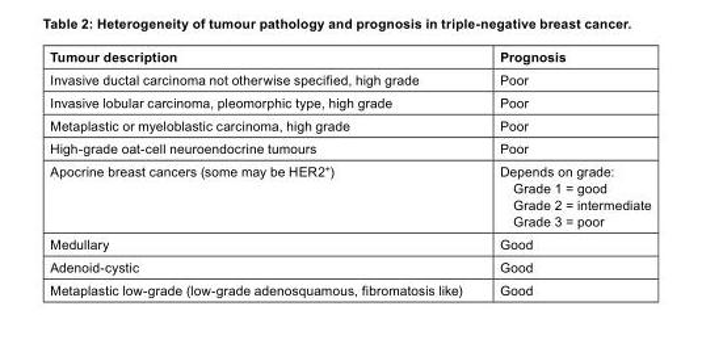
<table><thead><tr><td>Tumour description</td><td>Prognosis</td></tr></thead><tbody><tr><td>Invasive ductal carcinoma not otherwise specified, high grade</td><td>Poor</td></tr><tr><td>Invasive lobular carcinoma, pleomorphic type, high grade</td><td>Poor</td></tr><tr><td>Metaplastic or myeloblastic carcinoma, high grade</td><td>Poor</td></tr><tr><td>High-grade oat-cell neuroendocrine tumours</td><td>Poor</td></tr><tr><td>Apocrine breast cancers (some may be HER2<sup>+</sup>)</td><td>Depends on grade: Grade 1 = good Grade 2 = intermediate Grade 3 = poor</td></tr><tr><td>Medullary</td><td>Good</td></tr><tr><td>Adenoid-cystic</td><td>Good</td></tr><tr><td>Metaplastic low-grade (low-grade adenosquamous, fibromatosis like)</td><td>Good</td></tr></tbody></table>